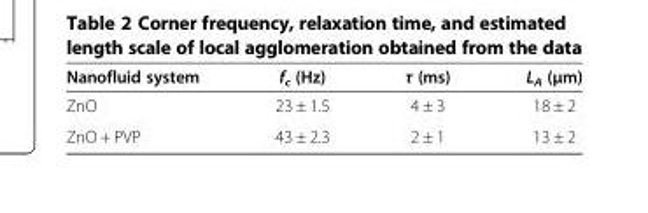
<table><thead><tr><td>Nanofluid system</td><td>f<sub>c</sub> (Hz)</td><td>τ (ms)</td><td>L<sub>A</sub> (μm)</td></tr></thead><tbody><tr><td>ZnO</td><td>23 ± 1.5</td><td>4 ± 3</td><td>18 ± 2</td></tr><tr><td>ZnO + PVP</td><td>43 ± 2.3</td><td>2 ± 1</td><td>13 ± 2</td></tr></tbody></table>